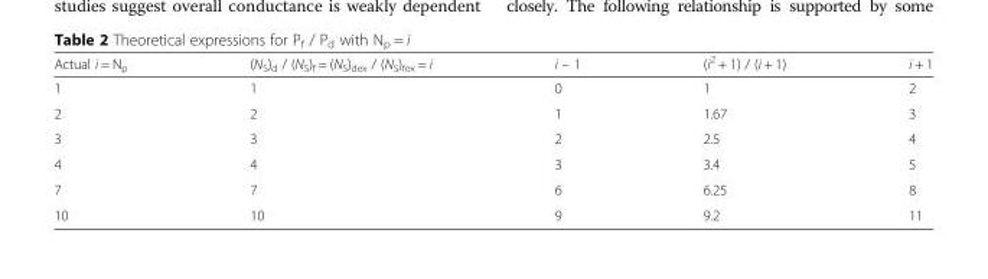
<table><thead><tr><td>Actual i = N<sub>p</sub></td><td>(N<sub>S</sub>)<sub>d</sub> / (N<sub>S</sub>)<sub>f</sub> = (N<sub>S</sub>)<sub>dex</sub> / (N<sub>S</sub>)<sub>fex</sub> = i</td><td>i – 1</td><td>(i<sup>2</sup> + 1) / (i + 1)</td><td>i + 1</td></tr></thead><tbody><tr><td>1</td><td>1</td><td>0</td><td>1</td><td>2</td></tr><tr><td>2</td><td>2</td><td>1</td><td>1.67</td><td>3</td></tr><tr><td>3</td><td>3</td><td>2</td><td>2.5</td><td>4</td></tr><tr><td>4</td><td>4</td><td>3</td><td>3.4</td><td>5</td></tr><tr><td>7</td><td>7</td><td>6</td><td>6.25</td><td>8</td></tr><tr><td>10</td><td>10</td><td>9</td><td>9.2</td><td>11</td></tr></tbody></table>